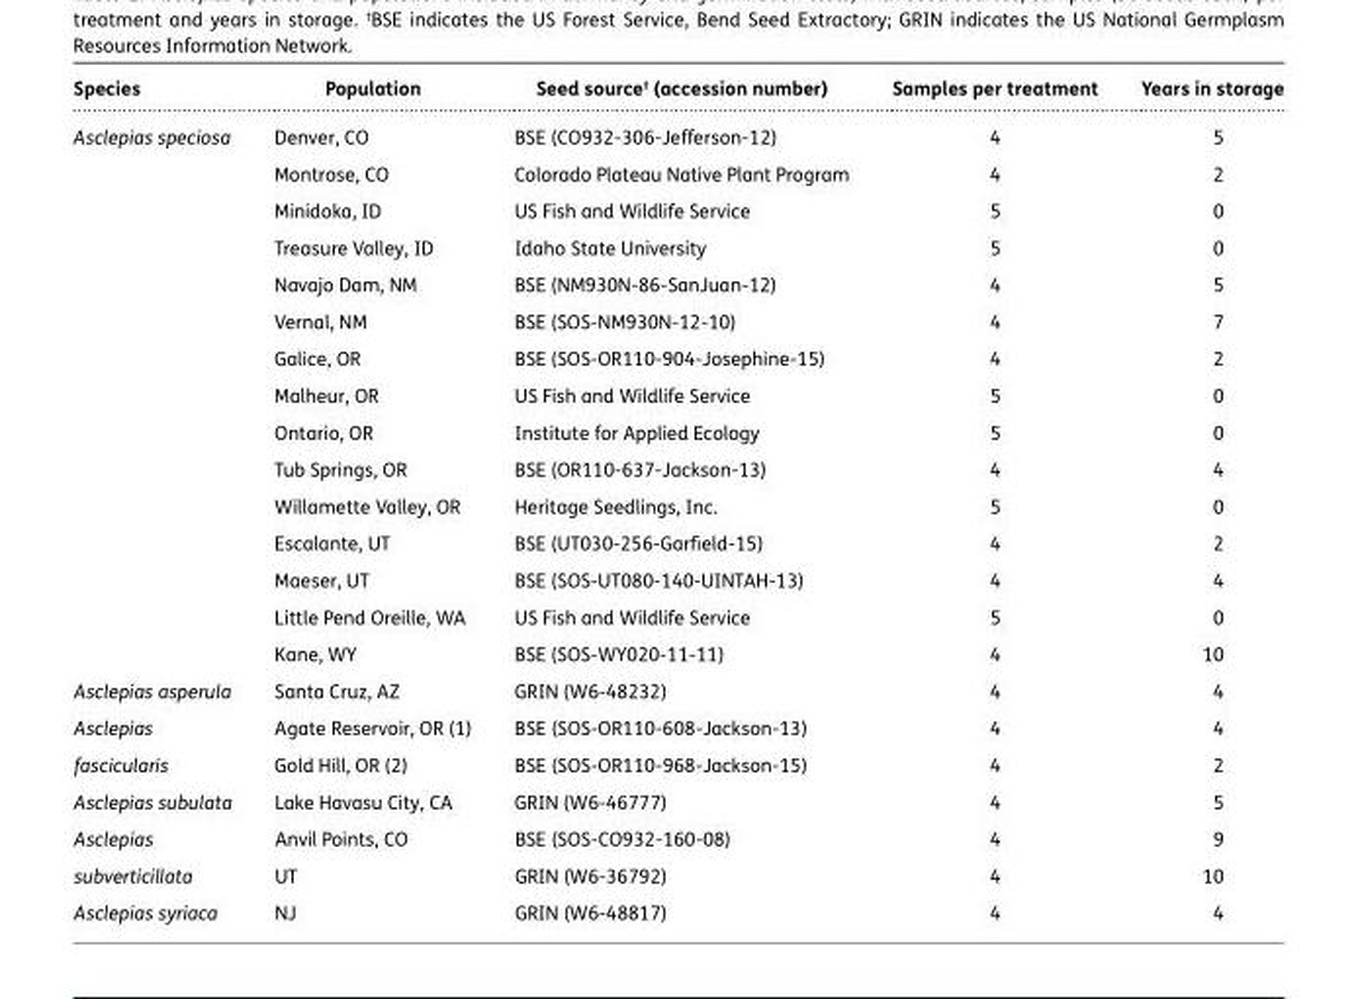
<table><thead><tr><td>Species</td><td>Population</td><td>Seed source<sup>†</sup> (accession number)</td><td>Samples per treatment</td><td>Years in storage</td></tr></thead><tbody><tr><td rowspan="15">Asclepias speciosa</td><td>Denver, CO</td><td>BSE (CO932-306-Jefferson-12)</td><td>4</td><td>5</td></tr><tr><td>Montrose, CO</td><td>Colorado Plateau Native Plant Program</td><td>4</td><td>2</td></tr><tr><td>Minidoka, ID</td><td>US Fish and Wildlife Service</td><td>5</td><td>0</td></tr><tr><td>Treasure Valley, ID</td><td>Idaho State University</td><td>5</td><td>0</td></tr><tr><td>Navajo Dam, NM</td><td>BSE (NM930N-86-SanJuan-12)</td><td>4</td><td>5</td></tr><tr><td>Vernal, NM</td><td>BSE (SOS-NM930N-12-10)</td><td>4</td><td>7</td></tr><tr><td>Galice, OR</td><td>BSE (SOS-OR110-904-Josephine-15)</td><td>4</td><td>2</td></tr><tr><td>Malheur, OR</td><td>US Fish and Wildlife Service</td><td>5</td><td>0</td></tr><tr><td>Ontario, OR</td><td>Institute for Applied Ecology</td><td>5</td><td>0</td></tr><tr><td>Tub Springs, OR</td><td>BSE (OR110-637-Jackson-13)</td><td>4</td><td>4</td></tr><tr><td>Willamette Valley, OR</td><td>Heritage Seedlings, Inc.</td><td>5</td><td>0</td></tr><tr><td>Escalante, UT</td><td>BSE (UT030-256-Garfield-15)</td><td>4</td><td>2</td></tr><tr><td>Maeser, UT</td><td>BSE (SOS-UT080-140-UINTAH-13)</td><td>4</td><td>4</td></tr><tr><td>Little Pend Oreille, WA</td><td>US Fish and Wildlife Service</td><td>5</td><td>0</td></tr><tr><td>Kane, WY</td><td>BSE (SOS-WY020-11-11)</td><td>4</td><td>10</td></tr><tr><td>Asclepias asperula</td><td>Santa Cruz, AZ</td><td>GRIN (W6-48232)</td><td>4</td><td>4</td></tr><tr><td rowspan="2">Asclepias fascicularis</td><td>Agate Reservoir, OR (1)</td><td>BSE (SOS-OR110-608-Jackson-13)</td><td>4</td><td>4</td></tr><tr><td>Gold Hill, OR (2)</td><td>BSE (SOS-OR110-968-Jackson-15)</td><td>4</td><td>2</td></tr><tr><td>Asclepias subulata</td><td>Lake Havasu City, CA</td><td>GRIN (W6-46777)</td><td>4</td><td>5</td></tr><tr><td rowspan="2">Asclepias subverticillata</td><td>Anvil Points, CO</td><td>BSE (SOS-CO932-160-08)</td><td>4</td><td>9</td></tr><tr><td>UT</td><td>GRIN (W6-36792)</td><td>4</td><td>10</td></tr><tr><td>Asclepias syriaca</td><td>NJ</td><td>GRIN (W6-48817)</td><td>4</td><td>4</td></tr></tbody></table>